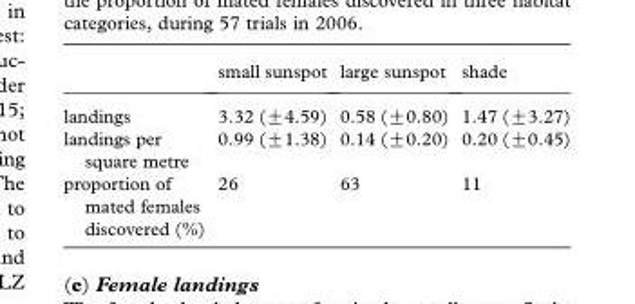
<table><thead><tr><td></td><td>small sunspot</td><td>large sunspot</td><td>shade</td></tr></thead><tbody><tr><td>landings</td><td>3.32 (±4.59)</td><td>0.58 (±0.80)</td><td>1.47 (±3.27)</td></tr><tr><td>landings per square metre</td><td>0.99 (±1.38)</td><td>0.14 (±0.20)</td><td>0.20 (±0.45)</td></tr><tr><td>proportion of mated females discovered (%)</td><td>26</td><td>63</td><td>11</td></tr></tbody></table>